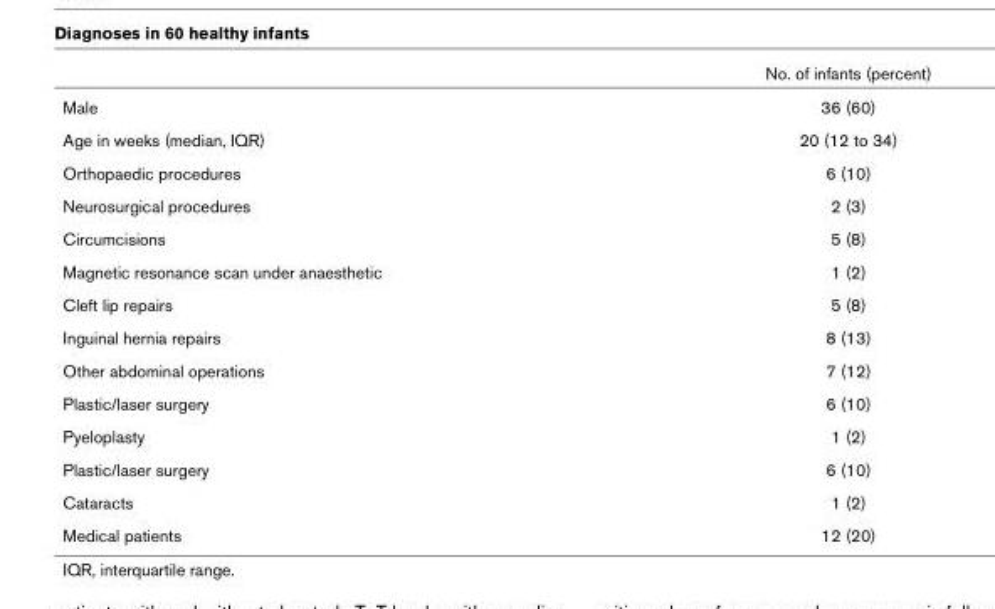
<table><thead><tr><td></td><td>No. of infants (percent)</td></tr></thead><tbody><tr><td>Male</td><td>36 (60)</td></tr><tr><td>Age in weeks (median, IQR)</td><td>20 (12 to 34)</td></tr><tr><td>Orthopaedic procedures</td><td>6 (10)</td></tr><tr><td>Neurosurgical procedures</td><td>2 (3)</td></tr><tr><td>Circumcisions</td><td>5 (8)</td></tr><tr><td>Magnetic resonance scan under anaesthetic</td><td>1 (2)</td></tr><tr><td>Cleft lip repairs</td><td>5 (8)</td></tr><tr><td>Inguinal hernia repairs</td><td>8 (13)</td></tr><tr><td>Other abdominal operations</td><td>7 (12)</td></tr><tr><td>Plastic/laser surgery</td><td>6 (10)</td></tr><tr><td>Pyeloplasty</td><td>1 (2)</td></tr><tr><td>Plastic/laser surgery</td><td>6 (10)</td></tr><tr><td>Cataracts</td><td>1 (2)</td></tr><tr><td>Medical patients</td><td>12 (20)</td></tr></tbody></table>